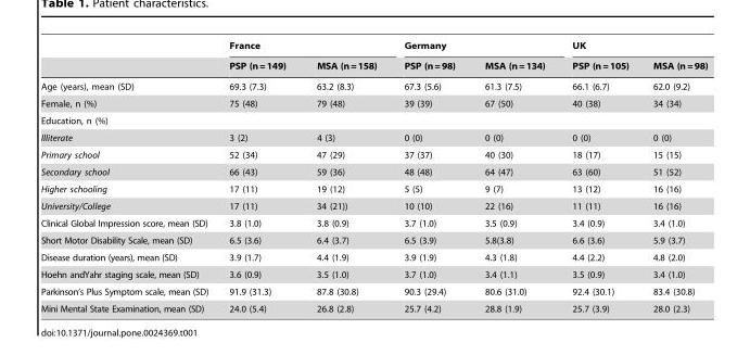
<table><thead><tr><td rowspan="2"></td><td colspan="2">France</td><td colspan="2">Germany</td><td colspan="2">UK</td></tr><tr><td>PSP (n=149)</td><td>MSA (n=158)</td><td>PSP (n=98)</td><td>MSA (n=134)</td><td>PSP (n=105)</td><td>MSA (n=98)</td></tr></thead><tbody><tr><td>Age (years), mean (SD)</td><td>69.3 (7.3)</td><td>63.2 (8.3)</td><td>67.3 (5.6)</td><td>61.3 (7.5)</td><td>66.1 (6.7)</td><td>62.0 (9.2)</td></tr><tr><td>Female, n (%)</td><td>75 (48)</td><td>79 (48)</td><td>39 (39)</td><td>67 (50)</td><td>40 (38)</td><td>34 (34)</td></tr><tr><td colspan="7">Education, n (%)</td></tr><tr><td>Illiterate</td><td>3 (2)</td><td>4 (3)</td><td>0 (0)</td><td>0 (0)</td><td>0 (0)</td><td>0 (0)</td></tr><tr><td>Primary school</td><td>52 (34)</td><td>47 (29)</td><td>37 (37)</td><td>40 (30)</td><td>18 (17)</td><td>15 (15)</td></tr><tr><td>Secondary school</td><td>66 (43)</td><td>59 (36)</td><td>48 (48)</td><td>64 (47)</td><td>63 (60)</td><td>51 (52)</td></tr><tr><td>Higher schooling</td><td>17 (11)</td><td>19 (12)</td><td>5 (5)</td><td>9 (7)</td><td>13 (12)</td><td>16 (16)</td></tr><tr><td>University/College</td><td>17 (11)</td><td>34 (21))</td><td>10 (10)</td><td>22 (16)</td><td>11 (11)</td><td>16 (16)</td></tr><tr><td>Clinical Global Impression score, mean (SD)</td><td>3.8 (1.0)</td><td>3.8 (0.9)</td><td>3.7 (1.0)</td><td>3.5 (0.9)</td><td>3.4 (0.9)</td><td>3.4 (1.0)</td></tr><tr><td>Short Motor Disability Scale, mean (SD)</td><td>6.5 (3.6)</td><td>6.4 (3.7)</td><td>6.5 (3.9)</td><td>5.8(3.8)</td><td>6.6 (3.6)</td><td>5.9 (3.7)</td></tr><tr><td>Disease duration (years), mean (SD)</td><td>3.9 (1.7)</td><td>4.4 (1.9)</td><td>3.9 (1.9)</td><td>4.3 (1.8)</td><td>4.4 (2.2)</td><td>4.8 (2.0)</td></tr><tr><td>Hoehn andYahr staging scale, mean (SD)</td><td>3.6 (0.9)</td><td>3.5 (1.0)</td><td>3.7 (1.0)</td><td>3.4 (1.1)</td><td>3.5 (0.9)</td><td>3.4 (1.0)</td></tr><tr><td>Parkinson’s Plus Symptom scale, mean (SD)</td><td>91.9 (31.3)</td><td>87.8 (30.8)</td><td>90.3 (29.4)</td><td>80.6 (31.0)</td><td>92.4 (30.1)</td><td>83.4 (30.8)</td></tr><tr><td>Mini Mental State Examination, mean (SD)</td><td>24.0 (5.4)</td><td>26.8 (2.8)</td><td>25.7 (4.2)</td><td>28.8 (1.9)</td><td>25.7 (3.9)</td><td>28.0 (2.3)</td></tr></tbody></table>